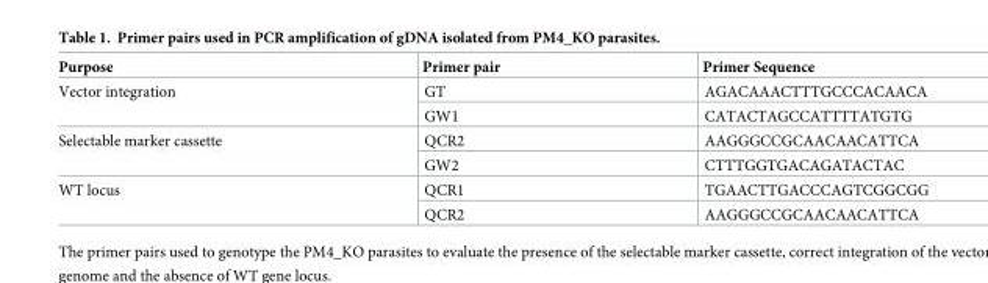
<table><thead><tr><td>Purpose</td><td>Primer pair</td><td>Primer Sequence</td></tr></thead><tbody><tr><td rowspan="2">Vector integration</td><td>GT</td><td>AGACAAACTTTGCCCACAACA</td></tr><tr><td>GW1</td><td>CATACTAGCCATTTTATGTG</td></tr><tr><td rowspan="2">Selectable marker cassette</td><td>QCR2</td><td>AAGGGCCGCAACAACATTCA</td></tr><tr><td>GW2</td><td>CTTTGGTGACAGATACTAC</td></tr><tr><td rowspan="2">WT locus</td><td>QCR1</td><td>TGAACTTGACCCAGTCGGCGG</td></tr><tr><td>QCR2</td><td>AAGGGCCGCAACAACATTCA</td></tr></tbody></table>